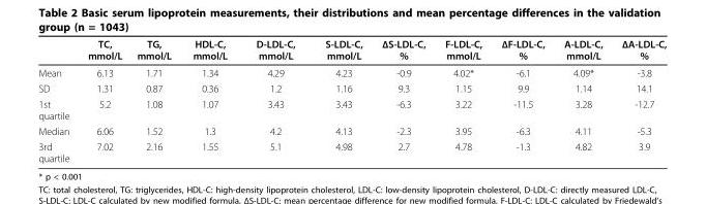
<table><thead><tr><td></td><td>TC, mmol/L</td><td>TG, mmol/L</td><td>HDL-C, mmol/L</td><td>D-LDL-C, mmol/L</td><td>S-LDL-C, mmol/L</td><td>ΔS-LDL-C, %</td><td>F-LDL-C, mmol/L</td><td>ΔF-LDL-C, %</td><td>A-LDL-C, mmol/L</td><td>ΔA-LDL-C, %</td></tr></thead><tbody><tr><td>Mean</td><td>6.13</td><td>1.71</td><td>1.34</td><td>4.29</td><td>4.23</td><td>-0.9</td><td>4.02*</td><td>-6.1</td><td>4.09*</td><td>-3.8</td></tr><tr><td>SD</td><td>1.31</td><td>0.87</td><td>0.36</td><td>1.2</td><td>1.16</td><td>9.3</td><td>1.15</td><td>9.9</td><td>1.14</td><td>14.1</td></tr><tr><td>1st quartile</td><td>5.2</td><td>1.08</td><td>1.07</td><td>3.43</td><td>3.43</td><td>-6.3</td><td>3.22</td><td>-11.5</td><td>3.28</td><td>-12.7</td></tr><tr><td>Median</td><td>6.06</td><td>1.52</td><td>1.3</td><td>4.2</td><td>4.13</td><td>-2.3</td><td>3.95</td><td>-6.3</td><td>4.11</td><td>-5.3</td></tr><tr><td>3rd quartile</td><td>7.02</td><td>2.16</td><td>1.55</td><td>5.1</td><td>4.98</td><td>2.7</td><td>4.78</td><td>-1.3</td><td>4.82</td><td>3.9</td></tr></tbody></table>